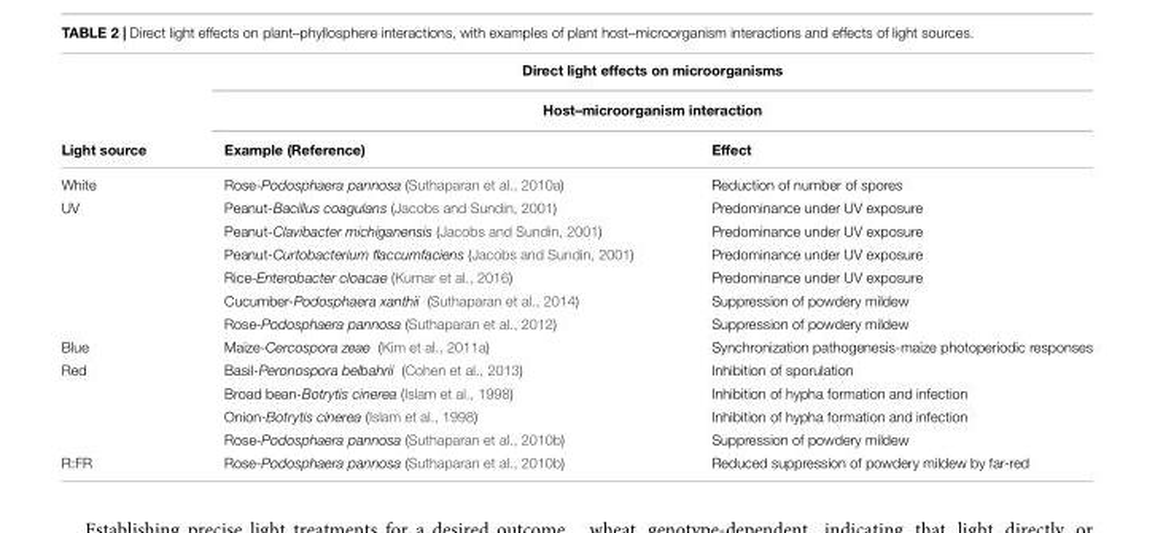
<table><thead><tr><td rowspan="3">Light source</td><td rowspan="2" colspan="2">Direct light effects on microorganisms Host–microorganism interaction</td></tr><tr></tr><tr><td>Example (Reference)</td><td>Effect</td></tr></thead><tbody><tr><td>White</td><td>Rose-Podosphaera pannosa (Suthaparan et al., 2010a)</td><td>Reduction of number of spores</td></tr><tr><td rowspan="6">UV</td><td>Peanut-Bacillus coagulans (Jacobs and Sundin, 2001)</td><td>Predominance under UV exposure</td></tr><tr><td>Peanut-Clavibacter michiganensis (Jacobs and Sundin, 2001)</td><td>Predominance under UV exposure</td></tr><tr><td>Peanut-Curtobacterium flaccumfaciens (Jacobs and Sundin, 2001)</td><td>Predominance under UV exposure</td></tr><tr><td>Rice-Enterobacter cloacae (Kumar et al., 2016)</td><td>Predominance under UV exposure</td></tr><tr><td>Cucumber-Podosphaera xanthii (Suthaparan et al., 2014)</td><td>Suppression of powdery mildew</td></tr><tr><td>Rose-Podosphaera pannosa (Suthaparan et al., 2012)</td><td>Suppression of powdery mildew</td></tr><tr><td>Blue</td><td>Maize-Cercospora zeae (Kim et al., 2011a)</td><td>Synchronization pathogenesis-maize photoperiodic responses</td></tr><tr><td rowspan="4">Red</td><td>Basil-Peronospora belbahrii (Cohen et al., 2013)</td><td>Inhibition of sporulation</td></tr><tr><td>Broad bean-Botrytis cinerea (Islam et al., 1998)</td><td>Inhibition of hypha formation and infection</td></tr><tr><td>Onion-Botrytis cinerea (Islam et al., 1998)</td><td>Inhibition of hypha formation and infection</td></tr><tr><td>Rose-Podosphaera pannosa (Suthaparan et al., 2010b)</td><td>Suppression of powdery mildew</td></tr><tr><td>R:FR</td><td>Rose-Podosphaera pannosa (Suthaparan et al., 2010b)</td><td>Reduced suppression of powdery mildew by far-red</td></tr></tbody></table>